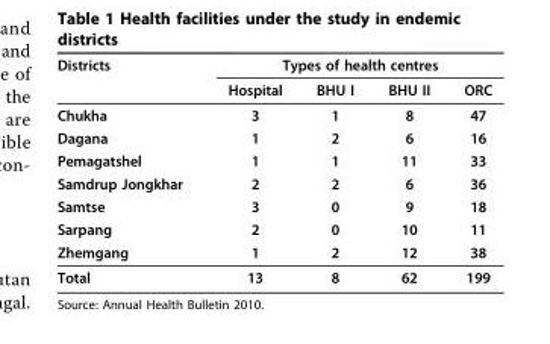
<table><thead><tr><td rowspan="2">Districts</td><td colspan="4">Types of health centres</td></tr><tr><td>Hospital</td><td>BHU I</td><td>BHU II</td><td>ORC</td></tr></thead><tbody><tr><td>Chukha</td><td>3</td><td>1</td><td>8</td><td>47</td></tr><tr><td>Dagana</td><td>1</td><td>2</td><td>6</td><td>16</td></tr><tr><td>Pemagatshel</td><td>1</td><td>1</td><td>11</td><td>33</td></tr><tr><td>Samdrup Jongkhar</td><td>2</td><td>2</td><td>6</td><td>36</td></tr><tr><td>Samtse</td><td>3</td><td>0</td><td>9</td><td>18</td></tr><tr><td>Sarpang</td><td>2</td><td>0</td><td>10</td><td>11</td></tr><tr><td>Zhemgang</td><td>1</td><td>2</td><td>12</td><td>38</td></tr><tr><td>Total</td><td>13</td><td>8</td><td>62</td><td>199</td></tr></tbody></table>